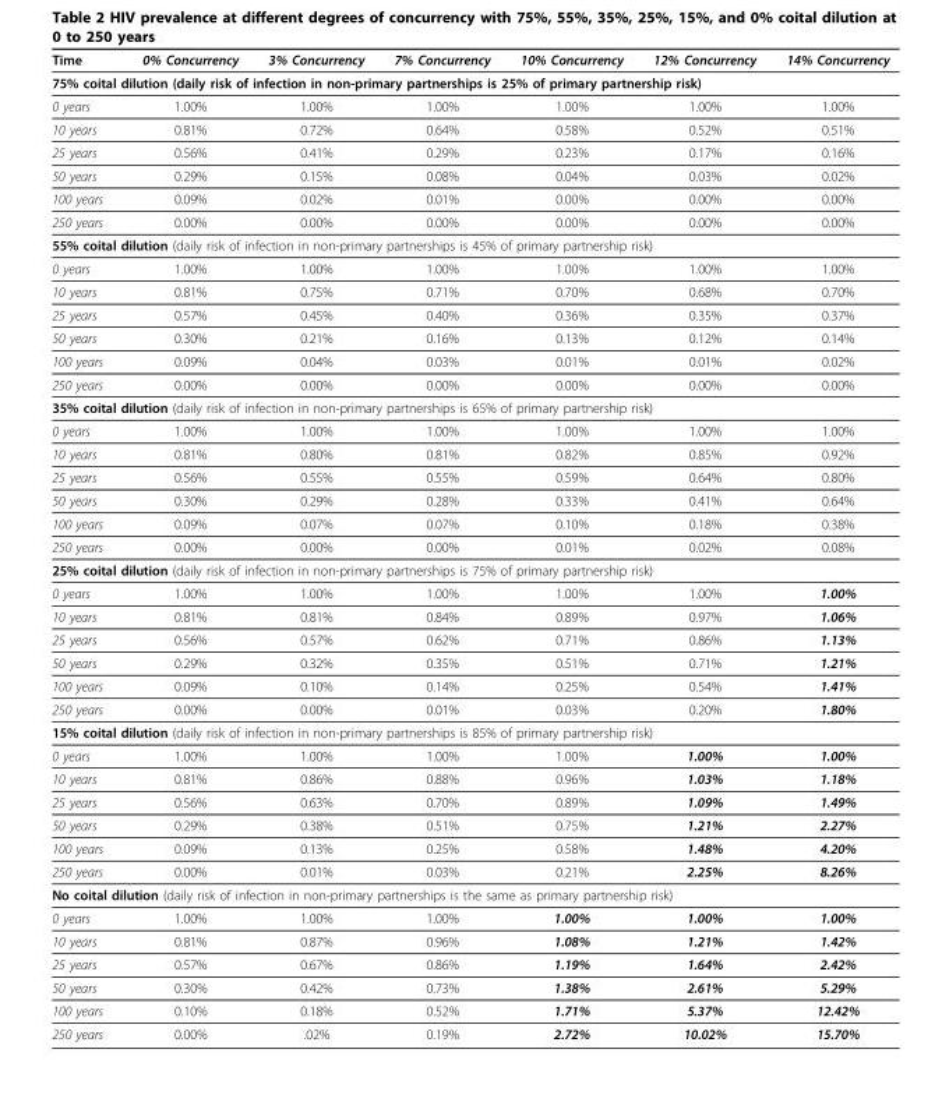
<table><thead><tr><td>Time</td><td>0% Concurrency</td><td>3% Concurrency</td><td>7% Concurrency</td><td>10% Concurrency</td><td>12% Concurrency</td><td>14% Concurrency</td></tr></thead><tbody><tr><td colspan="7">75% coital dilution (daily risk of infection in non-primary partnerships is 25% of primary partnership risk)</td></tr><tr><td>0 years</td><td>1.00%</td><td>1.00%</td><td>1.00%</td><td>1.00%</td><td>1.00%</td><td>1.00%</td></tr><tr><td>10 years</td><td>0.81%</td><td>0.72%</td><td>0.64%</td><td>0.58%</td><td>0.52%</td><td>0.51%</td></tr><tr><td>25 years</td><td>0.56%</td><td>0.41%</td><td>0.29%</td><td>0.23%</td><td>0.17%</td><td>0.16%</td></tr><tr><td>50 years</td><td>0.29%</td><td>0.15%</td><td>0.08%</td><td>0.04%</td><td>0.03%</td><td>0.02%</td></tr><tr><td>100 years</td><td>0.09%</td><td>0.02%</td><td>0.01%</td><td>0.00%</td><td>0.00%</td><td>0.00%</td></tr><tr><td>250 years</td><td>0.00%</td><td>0.00%</td><td>0.00%</td><td>0.00%</td><td>0.00%</td><td>0.00%</td></tr><tr><td colspan="7">55% coital dilution (daily risk of infection in non-primary partnerships is 45% of primary partnership risk)</td></tr><tr><td>0 years</td><td>1.00%</td><td>1.00%</td><td>1.00%</td><td>1.00%</td><td>1.00%</td><td>1.00%</td></tr><tr><td>10 years</td><td>0.81%</td><td>0.75%</td><td>0.71%</td><td>0.70%</td><td>0.68%</td><td>0.70%</td></tr><tr><td>25 years</td><td>0.57%</td><td>0.45%</td><td>0.40%</td><td>0.36%</td><td>0.35%</td><td>0.37%</td></tr><tr><td>50 years</td><td>0.30%</td><td>0.21%</td><td>0.16%</td><td>0.13%</td><td>0.12%</td><td>0.14%</td></tr><tr><td>100 years</td><td>0.09%</td><td>0.04%</td><td>0.03%</td><td>0.01%</td><td>0.01%</td><td>0.02%</td></tr><tr><td>250 years</td><td>0.00%</td><td>0.00%</td><td>0.00%</td><td>0.00%</td><td>0.00%</td><td>0.00%</td></tr><tr><td colspan="7">35% coital dilution (daily risk of infection in non-primary partnerships is 65% of primary partnership risk)</td></tr><tr><td>0 years</td><td>1.00%</td><td>1.00%</td><td>1.00%</td><td>1.00%</td><td>1.00%</td><td>1.00%</td></tr><tr><td>10 years</td><td>0.81%</td><td>0.80%</td><td>0.81%</td><td>0.82%</td><td>0.85%</td><td>0.92%</td></tr><tr><td>25 years</td><td>0.56%</td><td>0.55%</td><td>0.55%</td><td>0.59%</td><td>0.64%</td><td>0.80%</td></tr><tr><td>50 years</td><td>0.30%</td><td>0.29%</td><td>0.28%</td><td>0.33%</td><td>0.41%</td><td>0.64%</td></tr><tr><td>100 years</td><td>0.09%</td><td>0.07%</td><td>0.07%</td><td>0.10%</td><td>0.18%</td><td>0.38%</td></tr><tr><td>250 years</td><td>0.00%</td><td>0.00%</td><td>0.00%</td><td>0.01%</td><td>0.02%</td><td>0.08%</td></tr><tr><td colspan="7">25% coital dilution (daily risk of infection in non-primary partnerships is 75% of primary partnership risk)</td></tr><tr><td>0 years</td><td>1.00%</td><td>1.00%</td><td>1.00%</td><td>1.00%</td><td>1.00%</td><td>1.00%</td></tr><tr><td>10 years</td><td>0.81%</td><td>0.81%</td><td>0.84%</td><td>0.89%</td><td>0.97%</td><td>1.06%</td></tr><tr><td>25 years</td><td>0.56%</td><td>0.57%</td><td>0.62%</td><td>0.71%</td><td>0.86%</td><td>1.13%</td></tr><tr><td>50 years</td><td>0.29%</td><td>0.32%</td><td>0.35%</td><td>0.51%</td><td>0.71%</td><td>1.21%</td></tr><tr><td>100 years</td><td>0.09%</td><td>0.10%</td><td>0.14%</td><td>0.25%</td><td>0.54%</td><td>1.41%</td></tr><tr><td>250 years</td><td>0.00%</td><td>0.00%</td><td>0.01%</td><td>0.03%</td><td>0.20%</td><td>1.80%</td></tr><tr><td colspan="7">15% coital dilution (daily risk of infection in non-primary partnerships is 85% of primary partnership risk)</td></tr><tr><td>0 years</td><td>1.00%</td><td>1.00%</td><td>1.00%</td><td>1.00%</td><td>1.00%</td><td>1.00%</td></tr><tr><td>10 years</td><td>0.81%</td><td>0.86%</td><td>0.88%</td><td>0.96%</td><td>1.03%</td><td>1.18%</td></tr><tr><td>25 years</td><td>0.56%</td><td>0.63%</td><td>0.70%</td><td>0.89%</td><td>1.09%</td><td>1.49%</td></tr><tr><td>50 years</td><td>0.29%</td><td>0.38%</td><td>0.51%</td><td>0.75%</td><td>1.21%</td><td>2.27%</td></tr><tr><td>100 years</td><td>0.09%</td><td>0.13%</td><td>0.25%</td><td>0.58%</td><td>1.48%</td><td>4.20%</td></tr><tr><td>250 years</td><td>0.00%</td><td>0.01%</td><td>0.03%</td><td>0.21%</td><td>2.25%</td><td>8.26%</td></tr><tr><td colspan="7">No coital dilution (daily risk of infection in non-primary partnerships is the same as primary partnership risk)</td></tr><tr><td>0 years</td><td>1.00%</td><td>1.00%</td><td>1.00%</td><td>1.00%</td><td>1.00%</td><td>1.00%</td></tr><tr><td>10 years</td><td>0.81%</td><td>0.87%</td><td>0.96%</td><td>1.08%</td><td>1.21%</td><td>1.42%</td></tr><tr><td>25 years</td><td>0.57%</td><td>0.67%</td><td>0.86%</td><td>1.19%</td><td>1.64%</td><td>2.42%</td></tr><tr><td>50 years</td><td>0.30%</td><td>0.42%</td><td>0.73%</td><td>1.38%</td><td>2.61%</td><td>5.29%</td></tr><tr><td>100 years</td><td>0.10%</td><td>0.18%</td><td>0.52%</td><td>1.71%</td><td>5.37%</td><td>12.42%</td></tr><tr><td>250 years</td><td>0.00%</td><td>.02%</td><td>0.19%</td><td>2.72%</td><td>10.02%</td><td>15.70%</td></tr></tbody></table>